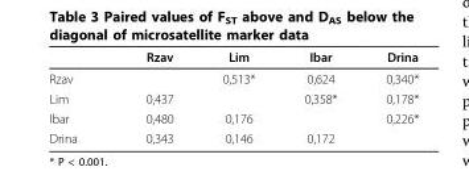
<table><thead><tr><td></td><td>Rzav</td><td>Lim</td><td>Ibar</td><td>Drina</td></tr></thead><tbody><tr><td>Rzav</td><td></td><td>0,513*</td><td>0,624</td><td>0,340*</td></tr><tr><td>Lim</td><td>0,437</td><td></td><td>0,358*</td><td>0,178*</td></tr><tr><td>Ibar</td><td>0,480</td><td>0,176</td><td></td><td>0,226*</td></tr><tr><td>Drina</td><td>0,343</td><td>0,146</td><td>0,172</td><td></td></tr></tbody></table>